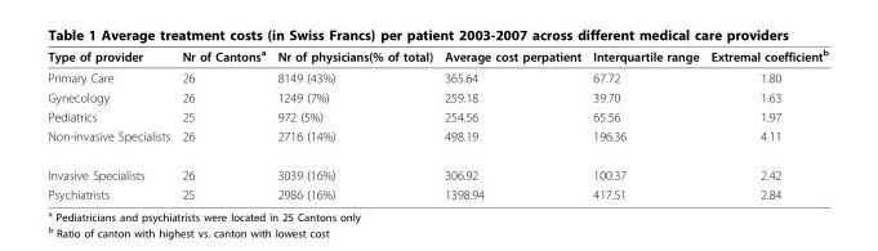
<table><thead><tr><td>Type of provider</td><td>Nr of Cantons<sup>a</sup></td><td>Nr of physicians(% of total)</td><td>Average cost perpatient</td><td>Interquartile range</td><td>Extremal coefficient<sup>b</sup></td></tr></thead><tbody><tr><td>Primary Care</td><td>26</td><td>8149 (43%)</td><td>365.64</td><td>67.72</td><td>1.80</td></tr><tr><td>Gynecology</td><td>26</td><td>1249 (7%)</td><td>259.18</td><td>39.70</td><td>1.63</td></tr><tr><td>Pediatrics</td><td>25</td><td>972 (5%)</td><td>254.56</td><td>65.56</td><td>1.97</td></tr><tr><td>Non-invasive Specialists</td><td>26</td><td>2716 (14%)</td><td>498.19</td><td>196.36</td><td>4.11</td></tr><tr><td>Invasive Specialists</td><td>26</td><td>3039 (16%)</td><td>306.92</td><td>100.37</td><td>2.42</td></tr><tr><td>Psychiatrists</td><td>25</td><td>2986 (16%)</td><td>1398.94</td><td>417.51</td><td>2.84</td></tr></tbody></table>